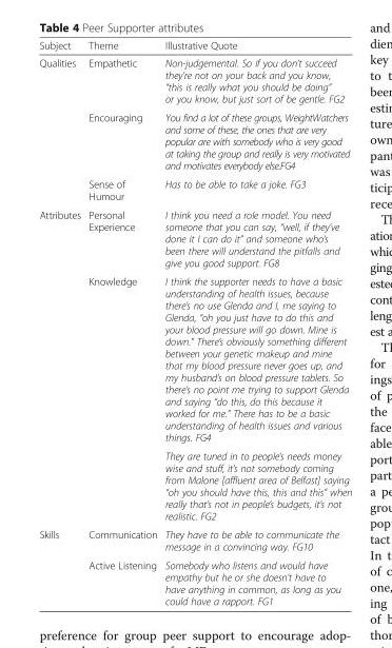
<table><thead><tr><td>Subject</td><td>Theme</td><td>Illustrative Quote</td></tr></thead><tbody><tr><td rowspan="3">Qualities</td><td>Empathetic</td><td>Non-judgemental. So if you don’t succeed they’re not on your back and you know, “this is really what you should be doing” or you know, but just sort of be gentle. FG2</td></tr><tr><td>Encouraging</td><td>You find a lot of these groups, WeightWatchers and some of these, the ones that are very popular are with somebody who is very good at taking the group and really is very motivated and motivates everybody else.FG4</td></tr><tr><td>Sense of Humour</td><td>Has to be able to take a joke. FG3</td></tr><tr><td rowspan="3">Attributes</td><td>Personal Experience</td><td>I think you need a role model. You need someone that you can say, “well, if they’ve done it I can do it” and someone who’s been there will understand the pitfalls and give you good support. FG8</td></tr><tr><td rowspan="2">Knowledge</td><td>I think the supporter needs to have a basic understanding of health issues, because there’s no use Glenda and I, me saying to Glenda, “oh you just have to do this and your blood pressure will go down. Mine is down.” There’s obviously something different between your genetic makeup and mine that my blood pressure never goes up, and my husband’s on blood pressure tablets. So there’s no point me trying to support Glenda and saying “do this, do this because it worked for me.” There has to be a basic understanding of health issues and various things. FG4</td></tr><tr><td>They are tuned in to people’s needs money wise and stuff, it’s not somebody coming from Malone [affluent area of Belfast] saying “oh you should have this, this and this” when really that’s not in people’s budgets, it’s not realistic. FG2</td></tr><tr><td rowspan="2">Skills</td><td>Communication</td><td>They have to be able to communicate the message in a convincing way. FG10</td></tr><tr><td>Active Listening</td><td>Somebody who listens and would have empathy but he or she doesn’t have to have anything in common, as long as you could have a rapport. FG1</td></tr></tbody></table>